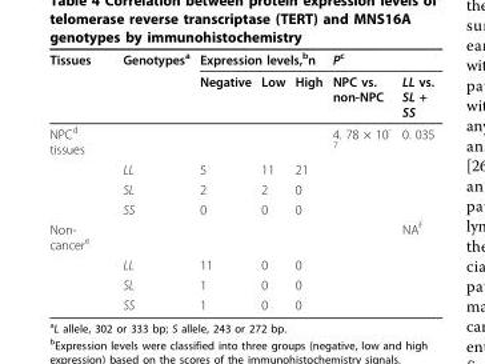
<table><thead><tr><td rowspan="2">Tissues</td><td rowspan="2">Genotypes<sup>a</sup></td><td colspan="3">Expression levels,<sup>b</sup>n</td><td colspan="2">P<sup>c</sup></td></tr><tr><td>Negative</td><td>Low</td><td>High</td><td>NPC vs. non-NPC</td><td>LL vs. SL + SS</td></tr></thead><tbody><tr><td rowspan="4">NPC<sup>d</sup> tissues</td><td></td><td></td><td></td><td></td><td>4. 78 × 10<sup>- 7</sup></td><td>0. 035</td></tr><tr><td>LL</td><td>5</td><td>11</td><td>21</td><td></td><td></td></tr><tr><td>SL</td><td>2</td><td>2</td><td>0</td><td></td><td></td></tr><tr><td>SS</td><td>0</td><td>0</td><td>0</td><td></td><td></td></tr><tr><td rowspan="4">Non- cancer<sup>e</sup></td><td></td><td></td><td></td><td></td><td></td><td>NA<sup>f</sup></td></tr><tr><td>LL</td><td>11</td><td>0</td><td>0</td><td></td><td></td></tr><tr><td>SL</td><td>1</td><td>0</td><td>0</td><td></td><td></td></tr><tr><td>SS</td><td>1</td><td>0</td><td>0</td><td></td><td></td></tr></tbody></table>